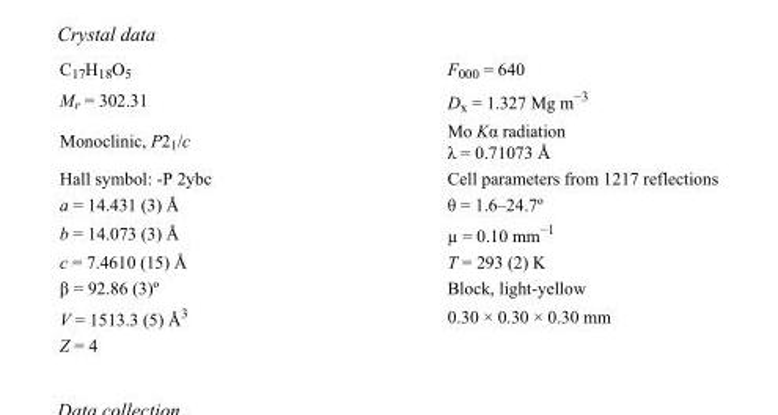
<table><tbody><tr><td>C<sub>17</sub>H<sub>18</sub>O<sub>5</sub></td><td>F<sub>000</sub> = 640</td></tr><tr><td>M<sub>r</sub> = 302.31</td><td>D<sub>x</sub> = 1.327 Mg m<sup>−3</sup></td></tr><tr><td>Monoclinic, P2<sub>1</sub>/c</td><td>Mo Kα radiation λ = 0.71073 Å</td></tr><tr><td>Hall symbol: -P 2ybc</td><td>Cell parameters from 1217 reflections</td></tr><tr><td>a = 14.431 (3) Å</td><td>θ = 1.6–24.7º</td></tr><tr><td>b = 14.073 (3) Å</td><td>µ = 0.10 mm<sup>−1</sup></td></tr><tr><td>c = 7.4610 (15) Å</td><td>T = 293 (2) K</td></tr><tr><td>β = 92.86 (3)º</td><td>Block, light-yellow</td></tr><tr><td>V = 1513.3 (5) Å<sup>3</sup></td><td>0.30 × 0.30 × 0.30 mm</td></tr><tr><td>Z = 4</td><td></td></tr></tbody></table>